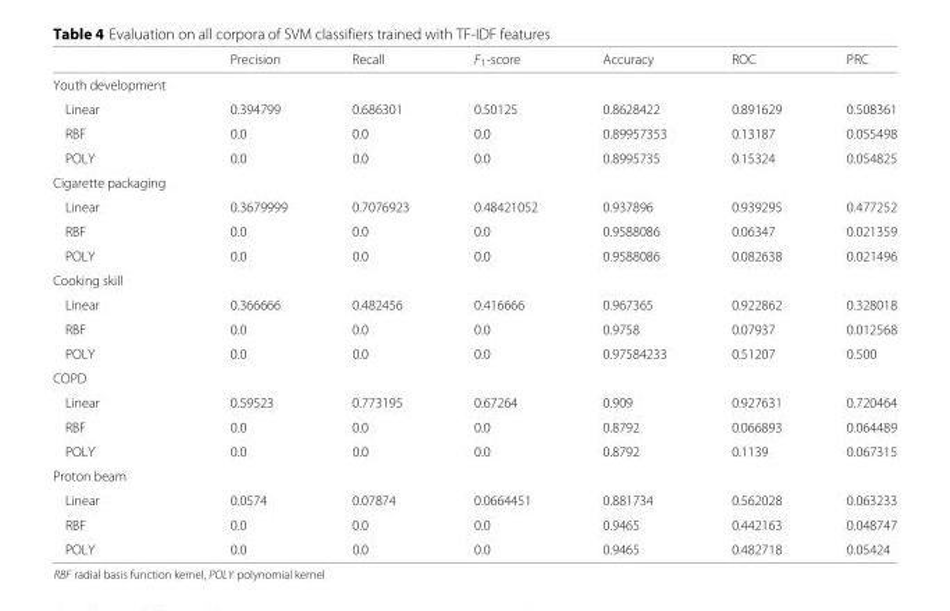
<table><thead><tr><td></td><td>Precision</td><td>Recall</td><td>F<sub>1</sub>-score</td><td>Accuracy</td><td>ROC</td><td>PRC</td></tr></thead><tbody><tr><td colspan="7">Youth development</td></tr><tr><td>Linear</td><td>0.394799</td><td>0.686301</td><td>0.50125</td><td>0.8628422</td><td>0.891629</td><td>0.508361</td></tr><tr><td>RBF</td><td>0.0</td><td>0.0</td><td>0.0</td><td>0.89957353</td><td>0.13187</td><td>0.055498</td></tr><tr><td>POLY</td><td>0.0</td><td>0.0</td><td>0.0</td><td>0.8995735</td><td>0.15324</td><td>0.054825</td></tr><tr><td colspan="7">Cigarette packaging</td></tr><tr><td>Linear</td><td>0.3679999</td><td>0.7076923</td><td>0.48421052</td><td>0.937896</td><td>0.939295</td><td>0.477252</td></tr><tr><td>RBF</td><td>0.0</td><td>0.0</td><td>0.0</td><td>0.9588086</td><td>0.06347</td><td>0.021359</td></tr><tr><td>POLY</td><td>0.0</td><td>0.0</td><td>0.0</td><td>0.9588086</td><td>0.082638</td><td>0.021496</td></tr><tr><td colspan="7">Cooking skill</td></tr><tr><td>Linear</td><td>0.366666</td><td>0.482456</td><td>0.416666</td><td>0.967365</td><td>0.922862</td><td>0.328018</td></tr><tr><td>RBF</td><td>0.0</td><td>0.0</td><td>0.0</td><td>0.9758</td><td>0.07937</td><td>0.012568</td></tr><tr><td>POLY</td><td>0.0</td><td>0.0</td><td>0.0</td><td>0.97584233</td><td>0.51207</td><td>0.500</td></tr><tr><td colspan="7">COPD</td></tr><tr><td>Linear</td><td>0.59523</td><td>0.773195</td><td>0.67264</td><td>0.909</td><td>0.927631</td><td>0.720464</td></tr><tr><td>RBF</td><td>0.0</td><td>0.0</td><td>0.0</td><td>0.8792</td><td>0.066893</td><td>0.064489</td></tr><tr><td>POLY</td><td>0.0</td><td>0.0</td><td>0.0</td><td>0.8792</td><td>0.1139</td><td>0.067315</td></tr><tr><td colspan="7">Proton beam</td></tr><tr><td>Linear</td><td>0.0574</td><td>0.07874</td><td>0.0664451</td><td>0.881734</td><td>0.562028</td><td>0.063233</td></tr><tr><td>RBF</td><td>0.0</td><td>0.0</td><td>0.0</td><td>0.9465</td><td>0.442163</td><td>0.048747</td></tr><tr><td>POLY</td><td>0.0</td><td>0.0</td><td>0.0</td><td>0.9465</td><td>0.482718</td><td>0.05424</td></tr></tbody></table>